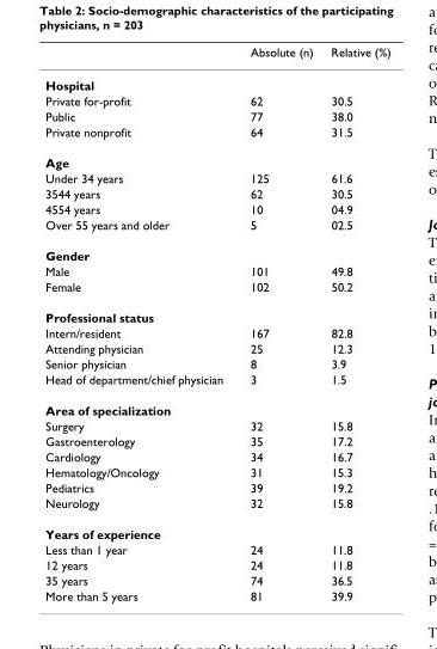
<table><thead><tr><td></td><td>Absolute (n)</td><td>Relative (%)</td></tr></thead><tbody><tr><td colspan="3">Hospital</td></tr><tr><td>Private for-profit</td><td>62</td><td>30.5</td></tr><tr><td>Public</td><td>77</td><td>38.0</td></tr><tr><td>Private nonprofit</td><td>64</td><td>31.5</td></tr><tr><td colspan="3">Age</td></tr><tr><td>Under 34 years</td><td>125</td><td>61.6</td></tr><tr><td>3544 years</td><td>62</td><td>30.5</td></tr><tr><td>4554 years</td><td>10</td><td>04.9</td></tr><tr><td>Over 55 years and older</td><td>5</td><td>02.5</td></tr><tr><td colspan="3">Gender</td></tr><tr><td>Male</td><td>101</td><td>49.8</td></tr><tr><td>Female</td><td>102</td><td>50.2</td></tr><tr><td colspan="3">Professional status</td></tr><tr><td>Intern/resident</td><td>167</td><td>82.8</td></tr><tr><td>Attending physician</td><td>25</td><td>12.3</td></tr><tr><td>Senior physician</td><td>8</td><td>3.9</td></tr><tr><td>Head of department/chief physician</td><td>3</td><td>1.5</td></tr><tr><td colspan="3">Area of specialization</td></tr><tr><td>Surgery</td><td>32</td><td>15.8</td></tr><tr><td>Gastroenterology</td><td>35</td><td>17.2</td></tr><tr><td>Cardiology</td><td>34</td><td>16.7</td></tr><tr><td>Hematology/Oncology</td><td>31</td><td>15.3</td></tr><tr><td>Pediatrics</td><td>39</td><td>19.2</td></tr><tr><td>Neurology</td><td>32</td><td>15.8</td></tr><tr><td colspan="3">Years of experience</td></tr><tr><td>Less than 1 year</td><td>24</td><td>11.8</td></tr><tr><td>12 years</td><td>24</td><td>11.8</td></tr><tr><td>35 years</td><td>74</td><td>36.5</td></tr><tr><td>More than 5 years</td><td>81</td><td>39.9</td></tr></tbody></table>